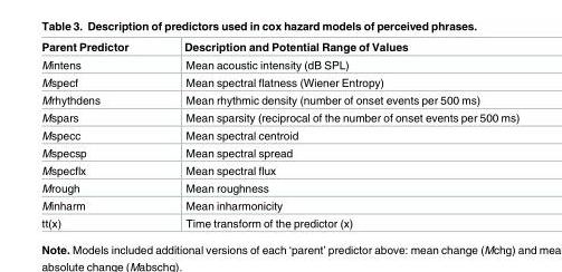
<table><thead><tr><td>Parent Predictor</td><td>Description and Potential Range of Values</td></tr></thead><tbody><tr><td>Mintens</td><td>Mean acoustic intensity (dB SPL)</td></tr><tr><td>Mspecf</td><td>Mean spectral flatness (Wiener Entropy)</td></tr><tr><td>Mrhythdens</td><td>Mean rhythmic density (number of onset events per 500 ms)</td></tr><tr><td>Mspars</td><td>Mean sparsity (reciprocal of the number of onset events per 500 ms)</td></tr><tr><td>Mspecc</td><td>Mean spectral centroid</td></tr><tr><td>Mspecsp</td><td>Mean spectral spread</td></tr><tr><td>Mspecflx</td><td>Mean spectral flux</td></tr><tr><td>Mrough</td><td>Mean roughness</td></tr><tr><td>Minharm</td><td>Mean inharmonicity</td></tr><tr><td>tt(x)</td><td>Time transform of the predictor (x)</td></tr></tbody></table>